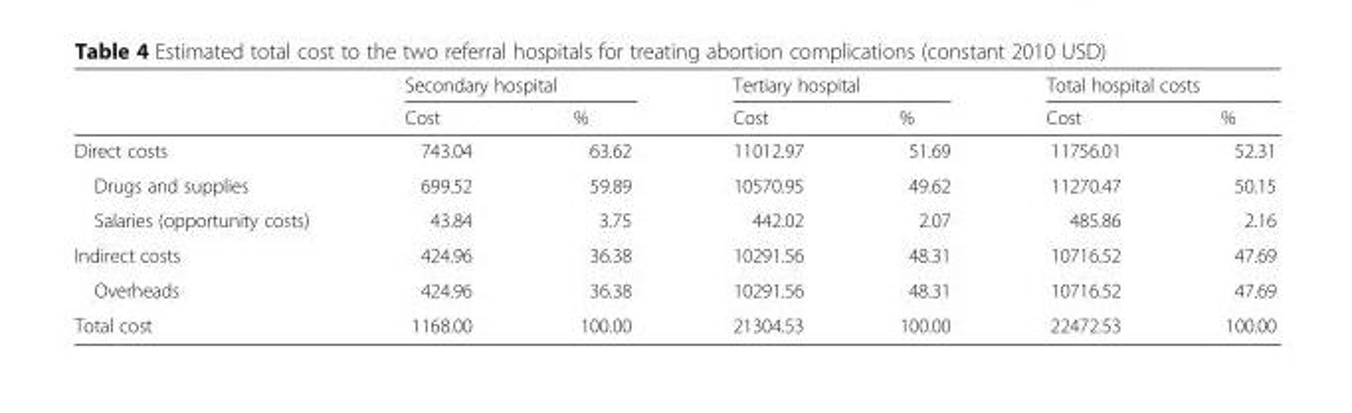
<table><thead><tr><td rowspan="2"></td><td colspan="2">Secondary hospital</td><td colspan="2">Tertiary hospital</td><td colspan="2">Total hospital costs</td></tr><tr><td>Cost</td><td>%</td><td>Cost</td><td>%</td><td>Cost</td><td>%</td></tr></thead><tbody><tr><td>Direct costs</td><td>743.04</td><td>63.62</td><td>11012.97</td><td>51.69</td><td>11756.01</td><td>52.31</td></tr><tr><td>Drugs and supplies</td><td>699.52</td><td>59.89</td><td>10570.95</td><td>49.62</td><td>11270.47</td><td>50.15</td></tr><tr><td>Salaries (opportunity costs)</td><td>43.84</td><td>3.75</td><td>442.02</td><td>2.07</td><td>485.86</td><td>2.16</td></tr><tr><td>Indirect costs</td><td>424.96</td><td>36.38</td><td>10291.56</td><td>48.31</td><td>10716.52</td><td>47.69</td></tr><tr><td>Overheads</td><td>424.96</td><td>36.38</td><td>10291.56</td><td>48.31</td><td>10716.52</td><td>47.69</td></tr><tr><td>Total cost</td><td>1168.00</td><td>100.00</td><td>21304.53</td><td>100.00</td><td>22472.53</td><td>100.00</td></tr></tbody></table>